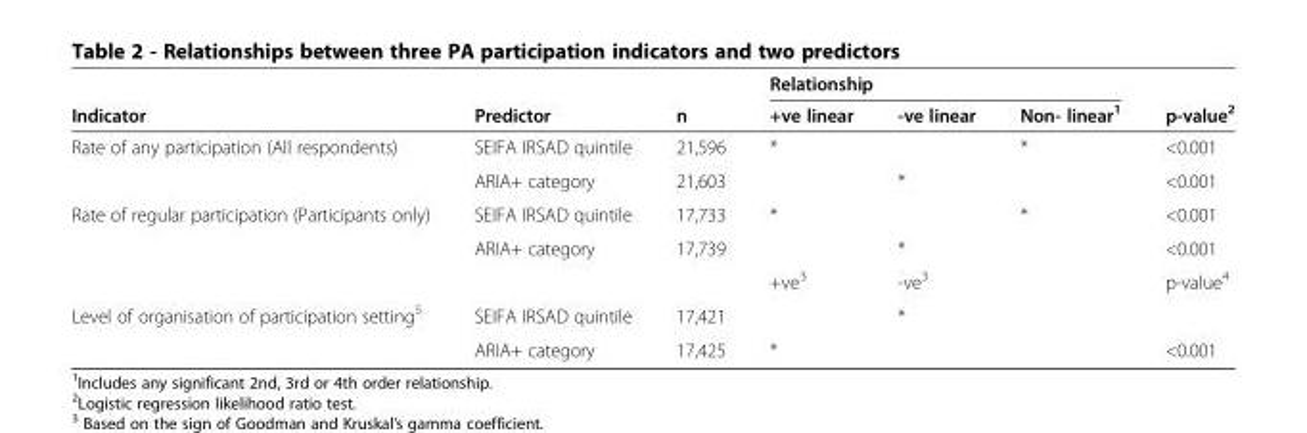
<table><thead><tr><td rowspan="2">Indicator</td><td rowspan="2">Predictor</td><td rowspan="2">n</td><td colspan="3">Relationship</td><td rowspan="2">p-value<sup>2</sup></td></tr><tr><td>+ve linear</td><td>-ve linear</td><td>Non- linear<sup>1</sup></td></tr></thead><tbody><tr><td rowspan="2">Rate of any participation (All respondents)</td><td>SEIFA IRSAD quintile</td><td>21,596</td><td>*</td><td></td><td>*</td><td>&lt;0.001</td></tr><tr><td>ARIA+ category</td><td>21,603</td><td></td><td>*</td><td></td><td>&lt;0.001</td></tr><tr><td rowspan="3">Rate of regular participation (Participants only)</td><td>SEIFA IRSAD quintile</td><td>17,733</td><td>*</td><td></td><td>*</td><td>&lt;0.001</td></tr><tr><td>ARIA+ category</td><td>17,739</td><td></td><td>*</td><td></td><td>&lt;0.001</td></tr><tr><td></td><td></td><td>+ve<sup>3</sup></td><td>-ve<sup>3</sup></td><td></td><td>p-value<sup>4</sup></td></tr><tr><td rowspan="2">Level of organisation of participation setting<sup>5</sup></td><td>SEIFA IRSAD quintile</td><td>17,421</td><td></td><td>*</td><td></td><td></td></tr><tr><td>ARIA+ category</td><td>17,425</td><td>*</td><td></td><td></td><td>&lt;0.001</td></tr></tbody></table>